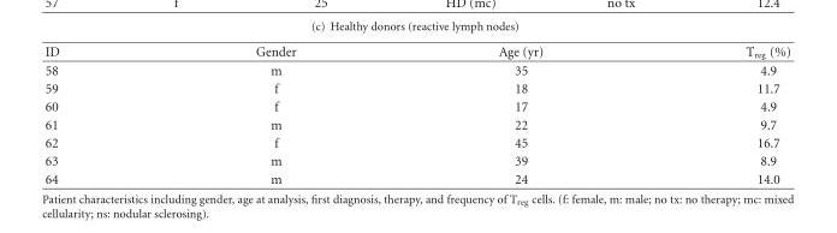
<table><thead><tr><td>ID</td><td>Gender</td><td>Age (yr)</td><td>T<sub>reg</sub> (%)</td></tr></thead><tbody><tr><td>58</td><td>m</td><td>35</td><td>4.9</td></tr><tr><td>59</td><td>f</td><td>18</td><td>11.7</td></tr><tr><td>60</td><td>f</td><td>17</td><td>4.9</td></tr><tr><td>61</td><td>m</td><td>22</td><td>9.7</td></tr><tr><td>62</td><td>f</td><td>45</td><td>16.7</td></tr><tr><td>63</td><td>m</td><td>39</td><td>8.9</td></tr><tr><td>64</td><td>m</td><td>24</td><td>14.0</td></tr></tbody></table>